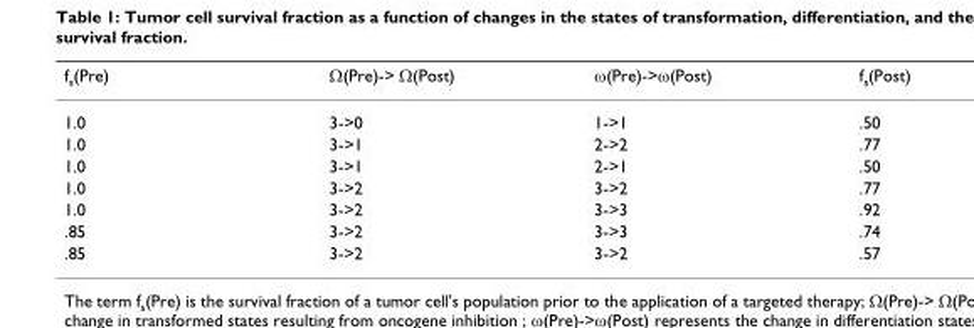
<table><thead><tr><td>f<sub>s</sub>(Pre)</td><td>Ω(Pre)-&gt; Ω(Post)</td><td>ω(Pre)-&gt;ω(Post)</td><td>f<sub>s</sub>(Post)</td></tr></thead><tbody><tr><td>1.0</td><td>3-&gt;0</td><td>1-&gt;1</td><td>.50</td></tr><tr><td>1.0</td><td>3-&gt;1</td><td>2-&gt;2</td><td>.77</td></tr><tr><td>1.0</td><td>3-&gt;1</td><td>2-&gt;1</td><td>.50</td></tr><tr><td>1.0</td><td>3-&gt;2</td><td>3-&gt;2</td><td>.77</td></tr><tr><td>1.0</td><td>3-&gt;2</td><td>3-&gt;3</td><td>.92</td></tr><tr><td>.85</td><td>3-&gt;2</td><td>3-&gt;3</td><td>.74</td></tr><tr><td>.85</td><td>3-&gt;2</td><td>3-&gt;2</td><td>.57</td></tr></tbody></table>